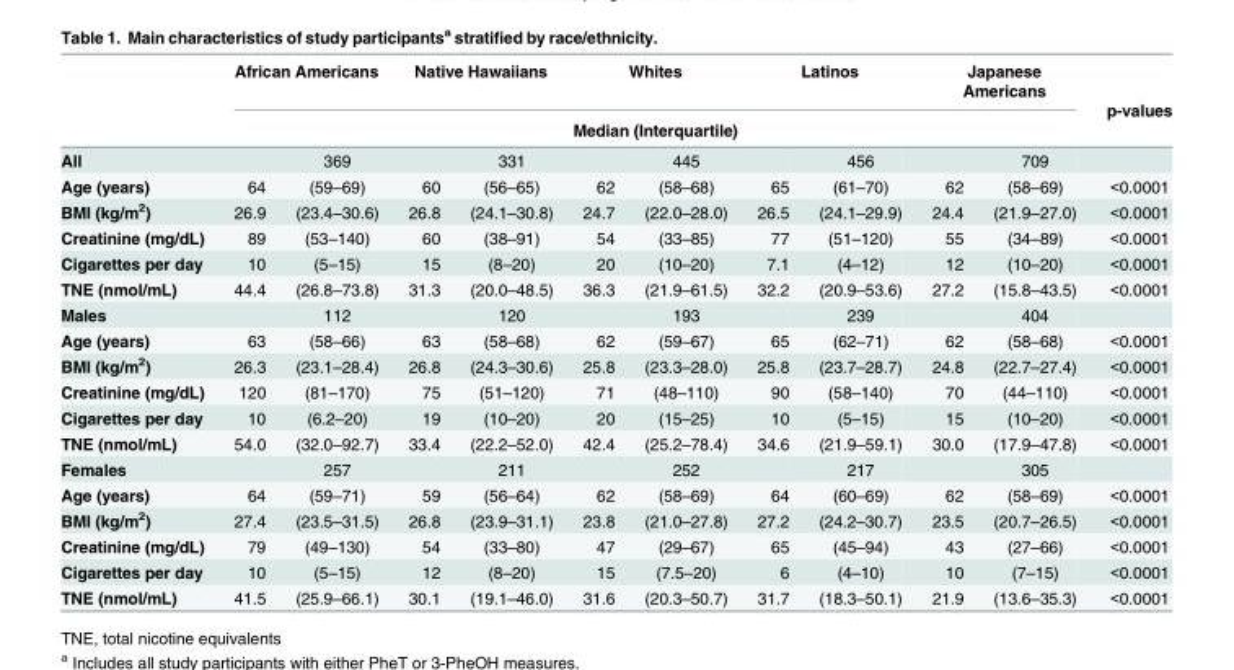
<table><thead><tr><td rowspan="3">All</td><td colspan="2">African Americans</td><td colspan="2">Native Hawaiians</td><td colspan="2">Whites</td><td colspan="2">Latinos</td><td colspan="2">Japanese Americans</td><td rowspan="3">p-values</td></tr><tr><td colspan="10">Median (Interquartile)</td></tr><tr><td></td><td>369</td><td></td><td>331</td><td></td><td>445</td><td></td><td>456</td><td></td><td>709</td></tr></thead><tbody><tr><td>Age (years)</td><td>64</td><td>(59–69)</td><td>60</td><td>(56–65)</td><td>62</td><td>(58–68)</td><td>65</td><td>(61–70)</td><td>62</td><td>(58–69)</td><td>&lt;0.0001</td></tr><tr><td>BMI (kg/m<sup>2</sup>)</td><td>26.9</td><td>(23.4–30.6)</td><td>26.8</td><td>(24.1–30.8)</td><td>24.7</td><td>(22.0–28.0)</td><td>26.5</td><td>(24.1–29.9)</td><td>24.4</td><td>(21.9–27.0)</td><td>&lt;0.0001</td></tr><tr><td>Creatinine (mg/dL)</td><td>89</td><td>(53–140)</td><td>60</td><td>(38–91)</td><td>54</td><td>(33–85)</td><td>77</td><td>(51–120)</td><td>55</td><td>(34–89)</td><td>&lt;0.0001</td></tr><tr><td>Cigarettes per day</td><td>10</td><td>(5–15)</td><td>15</td><td>(8–20)</td><td>20</td><td>(10–20)</td><td>7.1</td><td>(4–12)</td><td>12</td><td>(10–20)</td><td>&lt;0.0001</td></tr><tr><td>TNE (nmol/mL)</td><td>44.4</td><td>(26.8–73.8)</td><td>31.3</td><td>(20.0–48.5)</td><td>36.3</td><td>(21.9–61.5)</td><td>32.2</td><td>(20.9–53.6)</td><td>27.2</td><td>(15.8–43.5)</td><td>&lt;0.0001</td></tr><tr><td>Males</td><td></td><td>112</td><td></td><td>120</td><td></td><td>193</td><td></td><td>239</td><td></td><td>404</td><td></td></tr><tr><td>Age (years)</td><td>63</td><td>(58–66)</td><td>63</td><td>(58–68)</td><td>62</td><td>(59–67)</td><td>65</td><td>(62–71)</td><td>62</td><td>(58–68)</td><td>&lt;0.0001</td></tr><tr><td>BMI (kg/m<sup>2</sup>)</td><td>26.3</td><td>(23.1–28.4)</td><td>26.8</td><td>(24.3–30.6)</td><td>25.8</td><td>(23.3–28.0)</td><td>25.8</td><td>(23.7–28.7)</td><td>24.8</td><td>(22.7–27.4)</td><td>&lt;0.0001</td></tr><tr><td>Creatinine (mg/dL)</td><td>120</td><td>(81–170)</td><td>75</td><td>(51–120)</td><td>71</td><td>(48–110)</td><td>90</td><td>(58–140)</td><td>70</td><td>(44–110)</td><td>&lt;0.0001</td></tr><tr><td>Cigarettes per day</td><td>10</td><td>(6.2–20)</td><td>19</td><td>(10–20)</td><td>20</td><td>(15–25)</td><td>10</td><td>(5–15)</td><td>15</td><td>(10–20)</td><td>&lt;0.0001</td></tr><tr><td>TNE (nmol/mL)</td><td>54.0</td><td>(32.0–92.7)</td><td>33.4</td><td>(22.2–52.0)</td><td>42.4</td><td>(25.2–78.4)</td><td>34.6</td><td>(21.9–59.1)</td><td>30.0</td><td>(17.9–47.8)</td><td>&lt;0.0001</td></tr><tr><td>Females</td><td></td><td>257</td><td></td><td>211</td><td></td><td>252</td><td></td><td>217</td><td></td><td>305</td><td></td></tr><tr><td>Age (years)</td><td>64</td><td>(59–71)</td><td>59</td><td>(56–64)</td><td>62</td><td>(58–69)</td><td>64</td><td>(60–69)</td><td>62</td><td>(58–69)</td><td>&lt;0.0001</td></tr><tr><td>BMI (kg/m<sup>2</sup>)</td><td>27.4</td><td>(23.5–31.5)</td><td>26.8</td><td>(23.9–31.1)</td><td>23.8</td><td>(21.0–27.8)</td><td>27.2</td><td>(24.2–30.7)</td><td>23.5</td><td>(20.7–26.5)</td><td>&lt;0.0001</td></tr><tr><td>Creatinine (mg/dL)</td><td>79</td><td>(49–130)</td><td>54</td><td>(33–80)</td><td>47</td><td>(29–67)</td><td>65</td><td>(45–94)</td><td>43</td><td>(27–66)</td><td>&lt;0.0001</td></tr><tr><td>Cigarettes per day</td><td>10</td><td>(5–15)</td><td>12</td><td>(8–20)</td><td>15</td><td>(7.5–20)</td><td>6</td><td>(4–10)</td><td>10</td><td>(7–15)</td><td>&lt;0.0001</td></tr><tr><td>TNE (nmol/mL)</td><td>41.5</td><td>(25.9–66.1)</td><td>30.1</td><td>(19.1–46.0)</td><td>31.6</td><td>(20.3–50.7)</td><td>31.7</td><td>(18.3–50.1)</td><td>21.9</td><td>(13.6–35.3)</td><td>&lt;0.0001</td></tr></tbody></table>